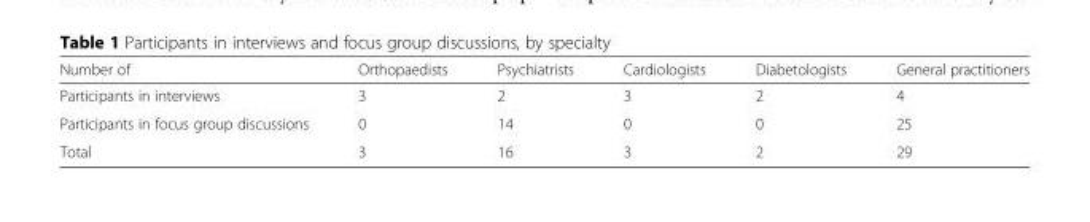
<table><thead><tr><td>Number of</td><td>Orthopaedists</td><td>Psychiatrists</td><td>Cardiologists</td><td>Diabetologists</td><td>General practitioners</td></tr></thead><tbody><tr><td>Participants in interviews</td><td>3</td><td>2</td><td>3</td><td>2</td><td>4</td></tr><tr><td>Participants in focus group discussions</td><td>0</td><td>14</td><td>0</td><td>0</td><td>25</td></tr><tr><td>Total</td><td>3</td><td>16</td><td>3</td><td>2</td><td>29</td></tr></tbody></table>